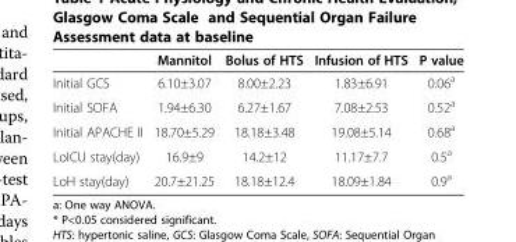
<table><thead><tr><td></td><td>Mannitol</td><td>Bolus of HTS</td><td>Infusion of HTS</td><td>P value</td></tr></thead><tbody><tr><td>Initial GCS</td><td>6.10±3.07</td><td>8.00±2.23</td><td>1.83±6.91</td><td>0.06<sup>a</sup></td></tr><tr><td>Initial SOFA</td><td>1.94±6.30</td><td>6.27±1.67</td><td>7.08±2.53</td><td>0.52<sup>a</sup></td></tr><tr><td>Initial APACHE II</td><td>18.70±5.29</td><td>18.18±3.48</td><td>19.08±5.14</td><td>0.68<sup>a</sup></td></tr><tr><td>LoICU stay(day)</td><td>16.9±9</td><td>14.2±12</td><td>11.17±7.7</td><td>0.5<sup>a</sup></td></tr><tr><td>LoH stay(day)</td><td>20.7±21.25</td><td>18.18±12.4</td><td>18.09±1.84</td><td>0.9<sup>a</sup></td></tr></tbody></table>